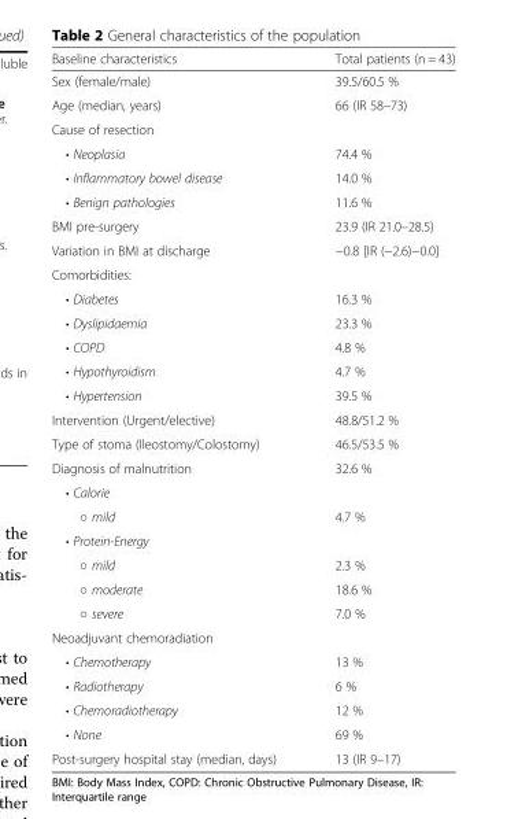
<table><thead><tr><td>Baseline characteristics</td><td>Total patients (n = 43)</td></tr></thead><tbody><tr><td>Sex (female/male)</td><td>39.5/60.5 %</td></tr><tr><td>Age (median, years)</td><td>66 (IR 58–73)</td></tr><tr><td colspan="2">Cause of resection</td></tr><tr><td>• Neoplasia</td><td>74.4 %</td></tr><tr><td>• Inflammatory bowel disease</td><td>14.0 %</td></tr><tr><td>• Benign pathologies</td><td>11.6 %</td></tr><tr><td>BMI pre-surgery</td><td>23.9 (IR 21.0–28.5)</td></tr><tr><td>Variation in BMI at discharge</td><td>−0.8 [IR (−2.6)−0.0]</td></tr><tr><td colspan="2">Comorbidities:</td></tr><tr><td>• Diabetes</td><td>16.3 %</td></tr><tr><td>• Dyslipidaemia</td><td>23.3 %</td></tr><tr><td>• COPD</td><td>4.8 %</td></tr><tr><td>• Hypothyroidism</td><td>4.7 %</td></tr><tr><td>• Hypertension</td><td>39.5 %</td></tr><tr><td>Intervention (Urgent/elective)</td><td>48.8/51.2 %</td></tr><tr><td>Type of stoma (Ileostomy/Colostomy)</td><td>46.5/53.5 %</td></tr><tr><td>Diagnosis of malnutrition</td><td>32.6 %</td></tr><tr><td colspan="2">• Calorie</td></tr><tr><td>○ mild</td><td>4.7 %</td></tr><tr><td colspan="2">• Protein-Energy</td></tr><tr><td>○ mild</td><td>2.3 %</td></tr><tr><td>○ moderate</td><td>18.6 %</td></tr><tr><td>○ severe</td><td>7.0 %</td></tr><tr><td colspan="2">Neoadjuvant chemoradiation</td></tr><tr><td>• Chemotherapy</td><td>13 %</td></tr><tr><td>• Radiotherapy</td><td>6 %</td></tr><tr><td>• Chemoradiotherapy</td><td>12 %</td></tr><tr><td>• None</td><td>69 %</td></tr><tr><td>Post-surgery hospital stay (median, days)</td><td>13 (IR 9–17)</td></tr></tbody></table>